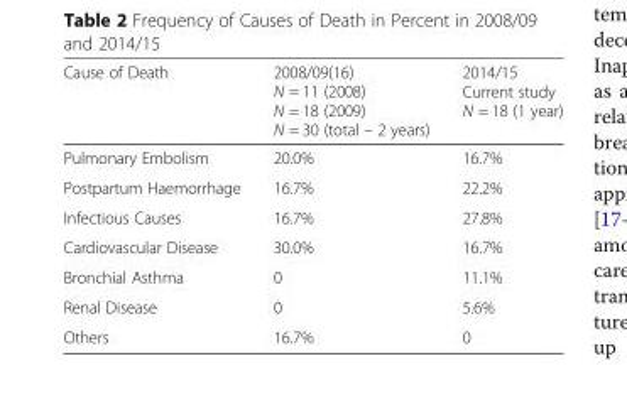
<table><thead><tr><td>Cause of Death</td><td>2008/09(16) N = 11 (2008) N = 18 (2009) N = 30 (total – 2 years)</td><td>2014/15 Current study N = 18 (1 year)</td></tr></thead><tbody><tr><td>Pulmonary Embolism</td><td>20.0%</td><td>16.7%</td></tr><tr><td>Postpartum Haemorrhage</td><td>16.7%</td><td>22.2%</td></tr><tr><td>Infectious Causes</td><td>16.7%</td><td>27.8%</td></tr><tr><td>Cardiovascular Disease</td><td>30.0%</td><td>16.7%</td></tr><tr><td>Bronchial Asthma</td><td>0</td><td>11.1%</td></tr><tr><td>Renal Disease</td><td>0</td><td>5.6%</td></tr><tr><td>Others</td><td>16.7%</td><td>0</td></tr></tbody></table>